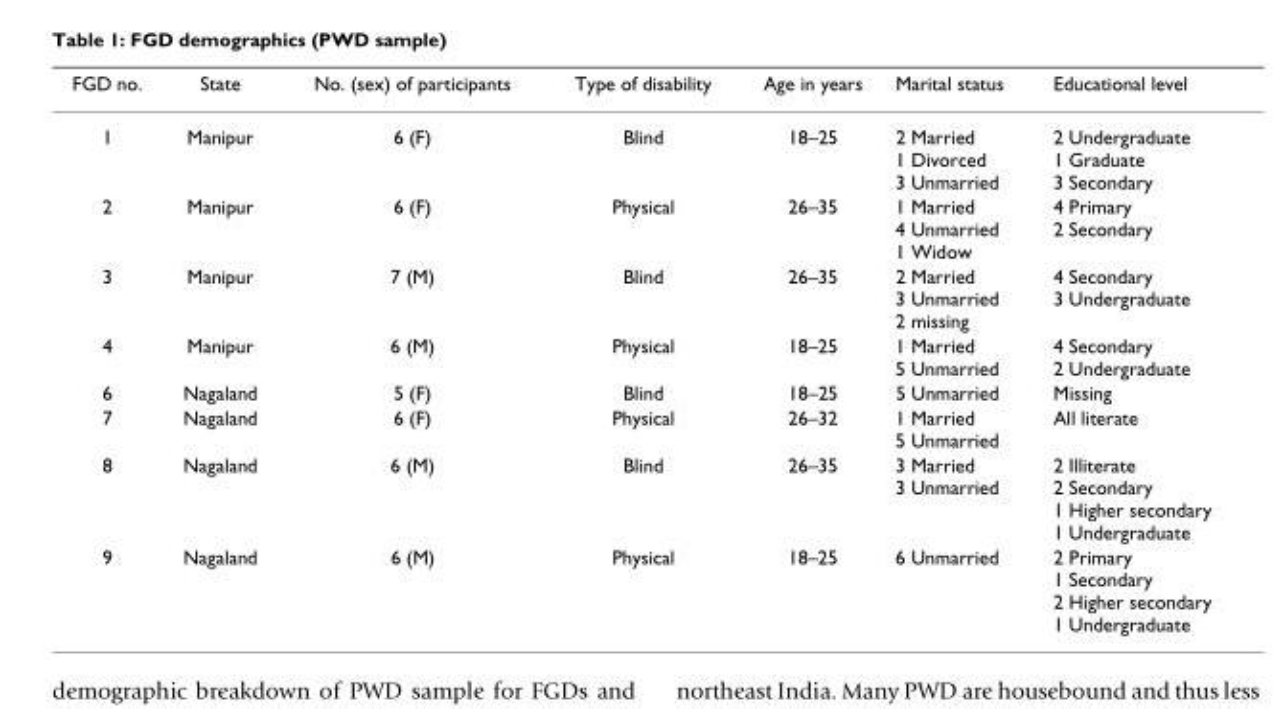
<table><thead><tr><td>FGD no.</td><td>State</td><td>No. (sex) of participants</td><td>Type of disability</td><td>Age in years</td><td>Marital status</td><td>Educational level</td></tr></thead><tbody><tr><td>1</td><td>Manipur</td><td>6 (F)</td><td>Blind</td><td>18–25</td><td>2 Married 1 Divorced 3 Unmarried</td><td>2 Undergraduate 1 Graduate 3 Secondary</td></tr><tr><td>2</td><td>Manipur</td><td>6 (F)</td><td>Physical</td><td>26–35</td><td>1 Married 4 Unmarried 1 Widow</td><td>4 Primary 2 Secondary</td></tr><tr><td>3</td><td>Manipur</td><td>7 (M)</td><td>Blind</td><td>26–35</td><td>2 Married 3 Unmarried 2 missing</td><td>4 Secondary 3 Undergraduate</td></tr><tr><td>4</td><td>Manipur</td><td>6 (M)</td><td>Physical</td><td>18–25</td><td>1 Married 5 Unmarried</td><td>4 Secondary 2 Undergraduate</td></tr><tr><td>6</td><td>Nagaland</td><td>5 (F)</td><td>Blind</td><td>18–25</td><td>5 Unmarried</td><td>Missing</td></tr><tr><td>7</td><td>Nagaland</td><td>6 (F)</td><td>Physical</td><td>26–32</td><td>1 Married 5 Unmarried</td><td>All literate</td></tr><tr><td>8</td><td>Nagaland</td><td>6 (M)</td><td>Blind</td><td>26–35</td><td>3 Married 3 Unmarried</td><td>2 Illiterate 2 Secondary 1 Higher secondary 1 Undergraduate</td></tr><tr><td>9</td><td>Nagaland</td><td>6 (M)</td><td>Physical</td><td>18–25</td><td>6 Unmarried</td><td>2 Primary 1 Secondary 2 Higher secondary 1 Undergraduate</td></tr></tbody></table>